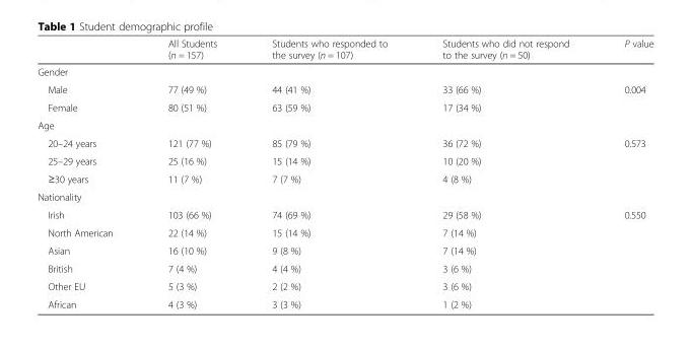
<table><thead><tr><td></td><td>All Students (n = 157)</td><td>Students who responded to the survey (n = 107)</td><td>Students who did not respond to the survey (n = 50)</td><td>P value</td></tr></thead><tbody><tr><td colspan="5">Gender</td></tr><tr><td>Male</td><td>77 (49 %)</td><td>44 (41 %)</td><td>33 (66 %)</td><td rowspan="2">0.004</td></tr><tr><td>Female</td><td>80 (51 %)</td><td>63 (59 %)</td><td>17 (34 %)</td></tr><tr><td colspan="5">Age</td></tr><tr><td>20–24 years</td><td>121 (77 %)</td><td>85 (79 %)</td><td>36 (72 %)</td><td rowspan="3">0.573</td></tr><tr><td>25–29 years</td><td>25 (16 %)</td><td>15 (14 %)</td><td>10 (20 %)</td></tr><tr><td>≥30 years</td><td>11 (7 %)</td><td>7 (7 %)</td><td>4 (8 %)</td></tr><tr><td colspan="5">Nationality</td></tr><tr><td>Irish</td><td>103 (66 %)</td><td>74 (69 %)</td><td>29 (58 %)</td><td rowspan="6">0.550</td></tr><tr><td>North American</td><td>22 (14 %)</td><td>15 (14 %)</td><td>7 (14 %)</td></tr><tr><td>Asian</td><td>16 (10 %)</td><td>9 (8 %)</td><td>7 (14 %)</td></tr><tr><td>British</td><td>7 (4 %)</td><td>4 (4 %)</td><td>3 (6 %)</td></tr><tr><td>Other EU</td><td>5 (3 %)</td><td>2 (2 %)</td><td>3 (6 %)</td></tr><tr><td>African</td><td>4 (3 %)</td><td>3 (3 %)</td><td>1 (2 %)</td></tr></tbody></table>